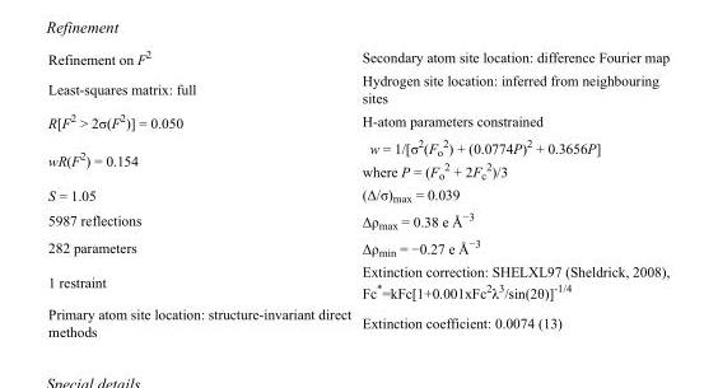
<table><tbody><tr><td>Refinement on F<sup>2</sup></td><td>Secondary atom site location: difference Fourier map</td></tr><tr><td>Least-squares matrix: full</td><td>Hydrogen site location: inferred from neighbouring sites</td></tr><tr><td>R[F<sup>2</sup> &gt; 2σ(F<sup>2</sup>)] = 0.050</td><td>H-atom parameters constrained</td></tr><tr><td>wR(F<sup>2</sup>) = 0.154</td><td>w = 1/[σ<sup>2</sup>(F<sub>o</sub> <sup>2</sup>) + (0.0774P)<sup>2</sup> + 0.3656P] where P = (F<sub>o</sub> <sup>2</sup> + 2F<sub>c</sub> <sup>2</sup>)/3</td></tr><tr><td>S = 1.05</td><td>(Δ/σ)<sub>max</sub> = 0.039</td></tr><tr><td>5987 reflections</td><td>Δρ<sub>max</sub> = 0.38 e Å<sup>−3</sup></td></tr><tr><td>282 parameters</td><td>Δρ<sub>min</sub> = −0.27 e Å<sup>−3</sup></td></tr><tr><td>1 restraint</td><td>Extinction correction: SHELXL97 (Sheldrick, 2008), Fc*=kFc[1+0.001xFc<sup>2</sup>λ<sup>3</sup>/sin(2θ)]<sup>-1/4</sup></td></tr><tr><td>Primary atom site location: structure-invariant direct methods</td><td>Extinction coefficient: 0.0074 (13)</td></tr></tbody></table>